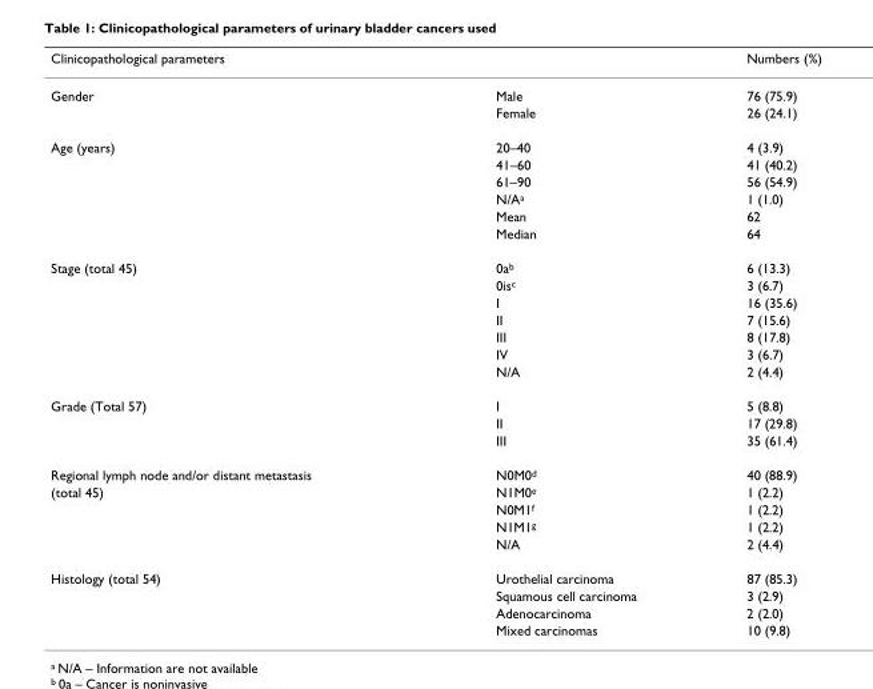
<table><thead><tr><td>Clinicopathological parameters</td><td></td><td>Numbers (%)</td></tr></thead><tbody><tr><td rowspan="2">Gender</td><td>Male</td><td>76 (75.9)</td></tr><tr><td>Female</td><td>26 (24.1)</td></tr><tr><td rowspan="6">Age (years)</td><td>20–40</td><td>4 (3.9)</td></tr><tr><td>41–60</td><td>41 (40.2)</td></tr><tr><td>61–90</td><td>56 (54.9)</td></tr><tr><td>N/A<sup>a</sup></td><td>1 (1.0)</td></tr><tr><td>Mean</td><td>62</td></tr><tr><td>Median</td><td>64</td></tr><tr><td rowspan="7">Stage (total 45)</td><td>0a<sup>b</sup></td><td>6 (13.3)</td></tr><tr><td>0is<sup>c</sup></td><td>3 (6.7)</td></tr><tr><td>I</td><td>16 (35.6)</td></tr><tr><td>II</td><td>7 (15.6)</td></tr><tr><td>III</td><td>8 (17.8)</td></tr><tr><td>IV</td><td>3 (6.7)</td></tr><tr><td>N/A</td><td>2 (4.4)</td></tr><tr><td rowspan="3">Grade (Total 57)</td><td>I</td><td>5 (8.8)</td></tr><tr><td>II</td><td>17 (29.8)</td></tr><tr><td>III</td><td>35 (61.4)</td></tr><tr><td>Regional lymph node and/or distant metastasis</td><td>N0M0<sup>d</sup></td><td>40 (88.9)</td></tr><tr><td rowspan="4">(total 45)</td><td>N1M0<sup>e</sup></td><td>1 (2.2)</td></tr><tr><td>N0M1<sup>f</sup></td><td>1 (2.2)</td></tr><tr><td>N1M1<sup>g</sup></td><td>1 (2.2)</td></tr><tr><td>N/A</td><td>2 (4.4)</td></tr><tr><td rowspan="4">Histology (total 54)</td><td>Urothelial carcinoma</td><td>87 (85.3)</td></tr><tr><td>Squamous cell carcinoma</td><td>3 (2.9)</td></tr><tr><td>Adenocarcinoma</td><td>2 (2.0)</td></tr><tr><td>Mixed carcinomas</td><td>10 (9.8)</td></tr></tbody></table>